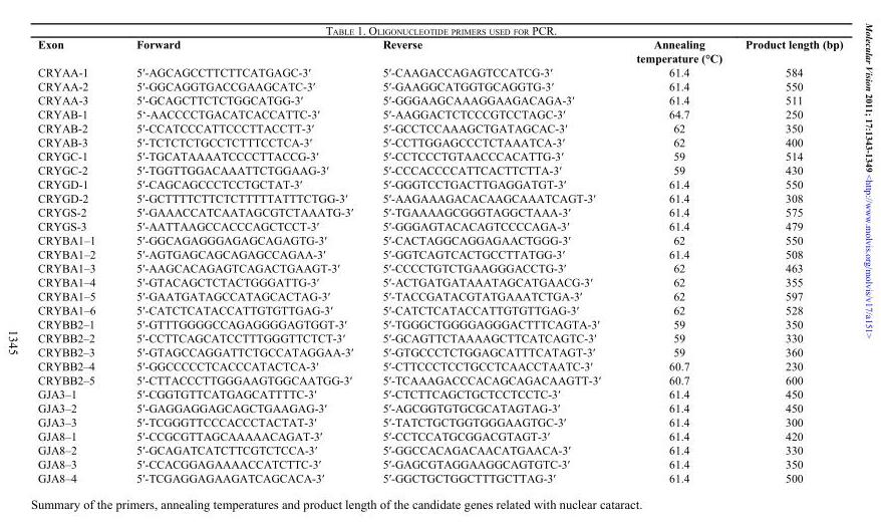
<table><thead><tr><td>Exon</td><td>Forward</td><td>Reverse</td><td>Annealing temperature (°C)</td><td>Product length (bp)</td></tr></thead><tbody><tr><td>CRYAA-1</td><td>5′-AGCAGCCTTCTTCATGAGC-3′</td><td>5′-CAAGACCAGAGTCCATCG-3′</td><td>61.4</td><td>584</td></tr><tr><td>CRYAA-2</td><td>5′-GGCAGGTGACCGAAGCATC-3′</td><td>5′-GAAGGCATGGTGCAGGTG-3′</td><td>61.4</td><td>550</td></tr><tr><td>CRYAA-3</td><td>5′-GCAGCTTCTCTGGCATGG-3′</td><td>5′-GGGAAGCAAAGGAAGACAGA-3′</td><td>61.4</td><td>511</td></tr><tr><td>CRYAB-1</td><td>5‘-AACCCCTGACATCACCATTC-3′</td><td>5′-AAGGACTCTCCCGTCCTAGC-3′</td><td>64.7</td><td>250</td></tr><tr><td>CRYAB-2</td><td>5′-CCATCCCATTCCCTTACCTT-3′</td><td>5′-GCCTCCAAAGCTGATAGCAC-3′</td><td>62</td><td>350</td></tr><tr><td>CRYAB-3</td><td>5′-TCTCTCTGCCTCTTTCCTCA-3′</td><td>5′-CCTTGGAGCCCTCTAAATCA-3′</td><td>62</td><td>400</td></tr><tr><td>CRYGC-1</td><td>5′-TGCATAAAATCCCCTTACCG-3′</td><td>5′-CCTCCCTGTAACCCACATTG-3′</td><td>59</td><td>514</td></tr><tr><td>CRYGC-2</td><td>5′-TGGTTGGACAAATTCTGGAAG-3′</td><td>5′-CCCACCCCATTCACTTCTTA-3′</td><td>59</td><td>430</td></tr><tr><td>CRYGD-1</td><td>5′-CAGCAGCCCTCCTGCTAT-3′</td><td>5′-GGGTCCTGACTTGAGGATGT-3′</td><td>61.4</td><td>550</td></tr><tr><td>CRYGD-2</td><td>5′-GCTTTTCTTCTCTTTTTATTTCTGG-3′</td><td>5′-AAGAAAGACACAAGCAAATCAGT-3′</td><td>61.4</td><td>308</td></tr><tr><td>CRYGS-2</td><td>5′-GAAACCATCAATAGCGTCTAAATG-3′</td><td>5′-TGAAAAGCGGGTAGGCTAAA-3′</td><td>61.4</td><td>575</td></tr><tr><td>CRYGS-3</td><td>5′-AATTAAGCCACCCAGCTCCT-3′</td><td>5′-GGGAGTACACAGTCCCCAGA-3′</td><td>61.4</td><td>479</td></tr><tr><td>CRYBA1–1</td><td>5′-GGCAGAGGGAGAGCAGAGTG-3′</td><td>5′-CACTAGGCAGGAGAACTGGG-3′</td><td>62</td><td>550</td></tr><tr><td>CRYBA1–2</td><td>5′-AGTGAGCAGCAGAGCCAGAA-3′</td><td>5′-GGTCAGTCACTGCCTTATGG-3′</td><td>61.4</td><td>508</td></tr><tr><td>CRYBA1–3</td><td>5′-AAGCACAGAGTCAGACTGAAGT-3′</td><td>5′-CCCCTGTCTGAAGGGACCTG-3′</td><td>62</td><td>463</td></tr><tr><td>CRYBA1–4</td><td>5′-GTACAGCTCTACTGGGATTG-3′</td><td>5′-ACTGATGATAAATAGCATGAACG-3′</td><td>62</td><td>355</td></tr><tr><td>CRYBA1–5</td><td>5′-GAATGATAGCCATAGCACTAG-3′</td><td>5′-TACCGATACGTATGAAATCTGA-3′</td><td>62</td><td>597</td></tr><tr><td>CRYBA1–6</td><td>5′-CATCTCATACCATTGTGTTGAG-3′</td><td>5′-CATCTCATACCATTGTGTTGAG-3′</td><td>62</td><td>528</td></tr><tr><td>CRYBB2–1</td><td>5′-GTTTGGGGCCAGAGGGGAGTGGT-3′</td><td>5′-TGGGCTGGGGAGGGACTTTCAGTA-3′</td><td>59</td><td>350</td></tr><tr><td>CRYBB2–2</td><td>5′-CCTTCAGCATCCTTTGGGTTCTCT-3′</td><td>5′-GCAGTTCTAAAAGCTTCATCAGTC-3′</td><td>59</td><td>330</td></tr><tr><td>CRYBB2–3</td><td>5′-GTAGCCAGGATTCTGCCATAGGAA-3′</td><td>5′-GTGCCCTCTGGAGCATTTCATAGT-3′</td><td>59</td><td>360</td></tr><tr><td>CRYBB2–4</td><td>5′-GGCCCCCTCACCCATACTCA-3′</td><td>5′-CTTCCCTCCTGCCTCAACCTAATC-3′</td><td>60.7</td><td>230</td></tr><tr><td>CRYBB2–5</td><td>5′-CTTACCCTTGGGAAGTGGCAATGG-3′</td><td>5′-TCAAAGACCCACAGCAGACAAGTT-3′</td><td>60.7</td><td>600</td></tr><tr><td>GJA3–1</td><td>5′-CGGTGTTCATGAGCATTTTC-3′</td><td>5′-CTCTTCAGCTGCTCCTCCTC-3′</td><td>61.4</td><td>450</td></tr><tr><td>GJA3–2</td><td>5′-GAGGAGGAGCAGCTGAAGAG-3′</td><td>5′-AGCGGTGTGCGCATAGTAG-3′</td><td>61.4</td><td>450</td></tr><tr><td>GJA3–3</td><td>5′-TCGGGTTCCCACCCTACTAT-3′</td><td>5′-TATCTGCTGGTGGGAAGTGC-3′</td><td>61.4</td><td>300</td></tr><tr><td>GJA8–1</td><td>5′-CCGCGTTAGCAAAAACAGAT-3′</td><td>5′-CCTCCATGCGGACGTAGT-3′</td><td>61.4</td><td>420</td></tr><tr><td>GJA8–2</td><td>5′-GCAGATCATCTTCGTCTCCA-3′</td><td>5′-GGCCACAGACAACATGAACA-3′</td><td>61.4</td><td>330</td></tr><tr><td>GJA8–3</td><td>5′-CCACGGAGAAAACCATCTTC-3′</td><td>5′-GAGCGTAGGAAGGCAGTGTC-3′</td><td>61.4</td><td>350</td></tr><tr><td>GJA8–4</td><td>5′-TCGAGGAGAAGATCAGCACA-3′</td><td>5′-GGCTGCTGGCTTTGCTTAG-3′</td><td>61.4</td><td>500</td></tr></tbody></table>